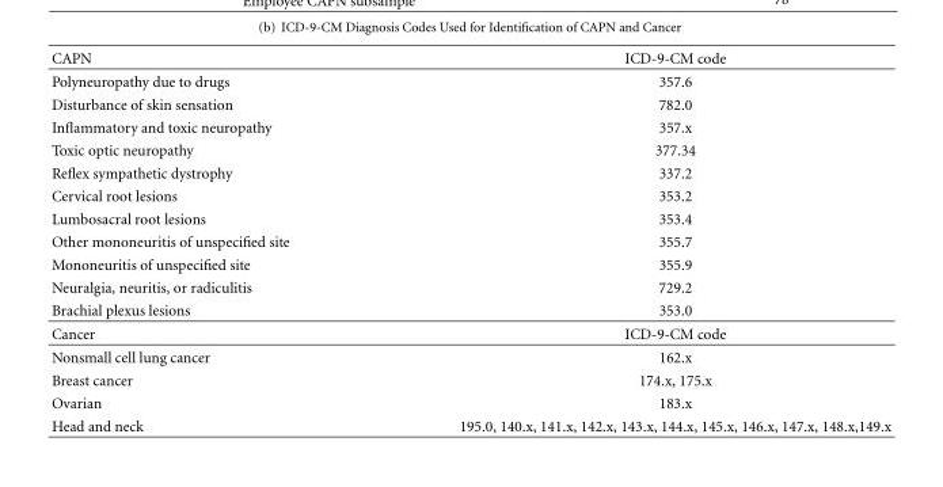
<table><thead><tr><td>CAPN</td><td>ICD-9-CM code</td></tr></thead><tbody><tr><td>Polyneuropathy due to drugs</td><td>357.6</td></tr><tr><td>Disturbance of skin sensation</td><td>782.0</td></tr><tr><td>Inflammatory and toxic neuropathy</td><td>357.x</td></tr><tr><td>Toxic optic neuropathy</td><td>377.34</td></tr><tr><td>Reflex sympathetic dystrophy</td><td>337.2</td></tr><tr><td>Cervical root lesions</td><td>353.2</td></tr><tr><td>Lumbosacral root lesions</td><td>353.4</td></tr><tr><td>Other mononeuritis of unspecified site</td><td>355.7</td></tr><tr><td>Mononeuritis of unspecified site</td><td>355.9</td></tr><tr><td>Neuralgia, neuritis, or radiculitis</td><td>729.2</td></tr><tr><td>Brachial plexus lesions</td><td>353.0</td></tr><tr><td>Cancer</td><td>ICD-9-CM code</td></tr><tr><td>Nonsmall cell lung cancer</td><td>162.x</td></tr><tr><td>Breast cancer</td><td>174.x, 175.x</td></tr><tr><td>Ovarian</td><td>183.x</td></tr><tr><td>Head and neck</td><td>195.0, 140.x, 141.x, 142.x, 143.x, 144.x, 145.x, 146.x, 147.x, 148.x,149.x</td></tr></tbody></table>